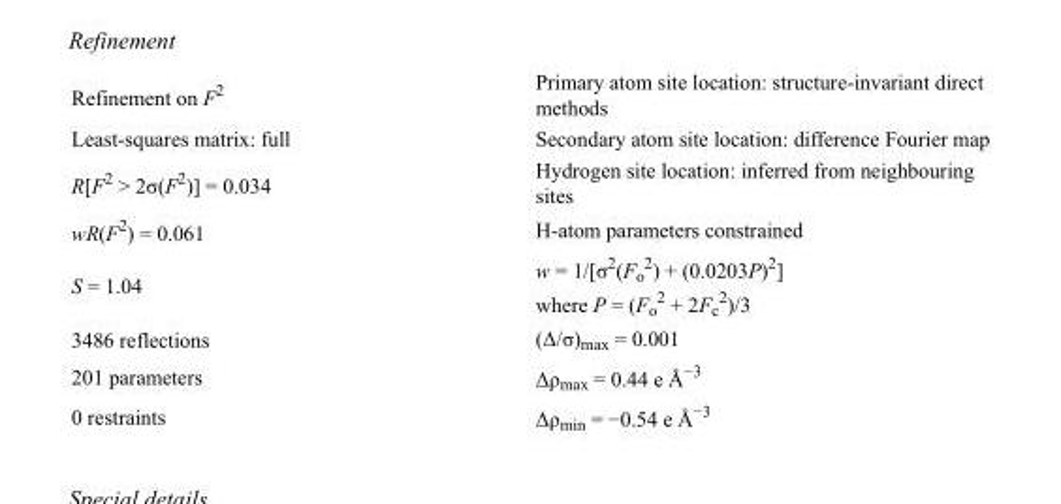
<table><tbody><tr><td>Refinement on F<sup>2</sup></td><td>Primary atom site location: structure-invariant direct methods</td></tr><tr><td>Least-squares matrix: full</td><td>Secondary atom site location: difference Fourier map</td></tr><tr><td>R[F<sup>2</sup> &gt; 2σ(F<sup>2</sup>)] = 0.034</td><td>Hydrogen site location: inferred from neighbouring sites</td></tr><tr><td>wR(F<sup>2</sup>) = 0.061</td><td>H-atom parameters constrained</td></tr><tr><td>S = 1.04</td><td>w = 1/[σ<sup>2</sup>(F<sub>o</sub> <sup>2</sup>) + (0.0203P)<sup>2</sup>] where P = (F<sub>o</sub> <sup>2</sup> + 2F<sub>c</sub> <sup>2</sup>)/3</td></tr><tr><td>3486 reflections</td><td>(Δ/σ)<sub>max</sub> = 0.001</td></tr><tr><td>201 parameters</td><td>Δρ<sub>max</sub> = 0.44 e Å<sup>−3</sup></td></tr><tr><td>0 restraints</td><td>Δρ<sub>min</sub> = −0.54 e Å<sup>−3</sup></td></tr></tbody></table>